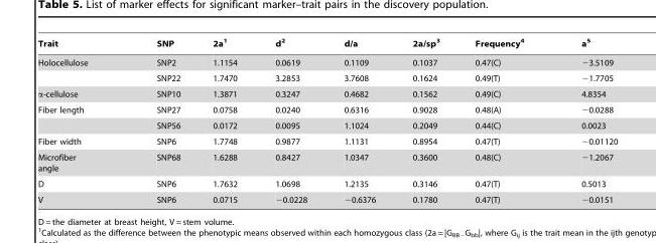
<table><thead><tr><td>Trait</td><td>SNP</td><td>2a<sup>1</sup></td><td>d<sup>2</sup></td><td>d/a</td><td>2a/sp<sup>3</sup></td><td>Frequency<sup>4</sup></td><td>a<sup>5</sup></td></tr></thead><tbody><tr><td rowspan="2">Holocellulose</td><td>SNP2</td><td>1.1154</td><td>0.0619</td><td>0.1109</td><td>0.1037</td><td>0.47(C)</td><td>−3.5109</td></tr><tr><td>SNP22</td><td>1.7470</td><td>3.2853</td><td>3.7608</td><td>0.1624</td><td>0.49(T)</td><td>−1.7705</td></tr><tr><td>α-cellulose</td><td>SNP10</td><td>1.3871</td><td>0.3247</td><td>0.4682</td><td>0.1562</td><td>0.49(C)</td><td>4.8354</td></tr><tr><td rowspan="2">Fiber length</td><td>SNP27</td><td>0.0758</td><td>0.0240</td><td>0.6316</td><td>0.9028</td><td>0.48(A)</td><td>−0.0288</td></tr><tr><td>SNP56</td><td>0.0172</td><td>0.0095</td><td>1.1024</td><td>0.2049</td><td>0.44(C)</td><td>0.0023</td></tr><tr><td>Fiber width</td><td>SNP6</td><td>1.7748</td><td>0.9877</td><td>1.1131</td><td>0.8954</td><td>0.47(T)</td><td>−0.01120</td></tr><tr><td>Microfiber angle</td><td>SNP68</td><td>1.6288</td><td>0.8427</td><td>1.0347</td><td>0.3600</td><td>0.48(C)</td><td>−1.2067</td></tr><tr><td>D</td><td>SNP6</td><td>1.7632</td><td>1.0698</td><td>1.2135</td><td>0.3146</td><td>0.47(T)</td><td>0.5013</td></tr><tr><td>V</td><td>SNP6</td><td>0.0715</td><td>−0.0228</td><td>−0.6376</td><td>0.1780</td><td>0.47(T)</td><td>−0.0151</td></tr></tbody></table>